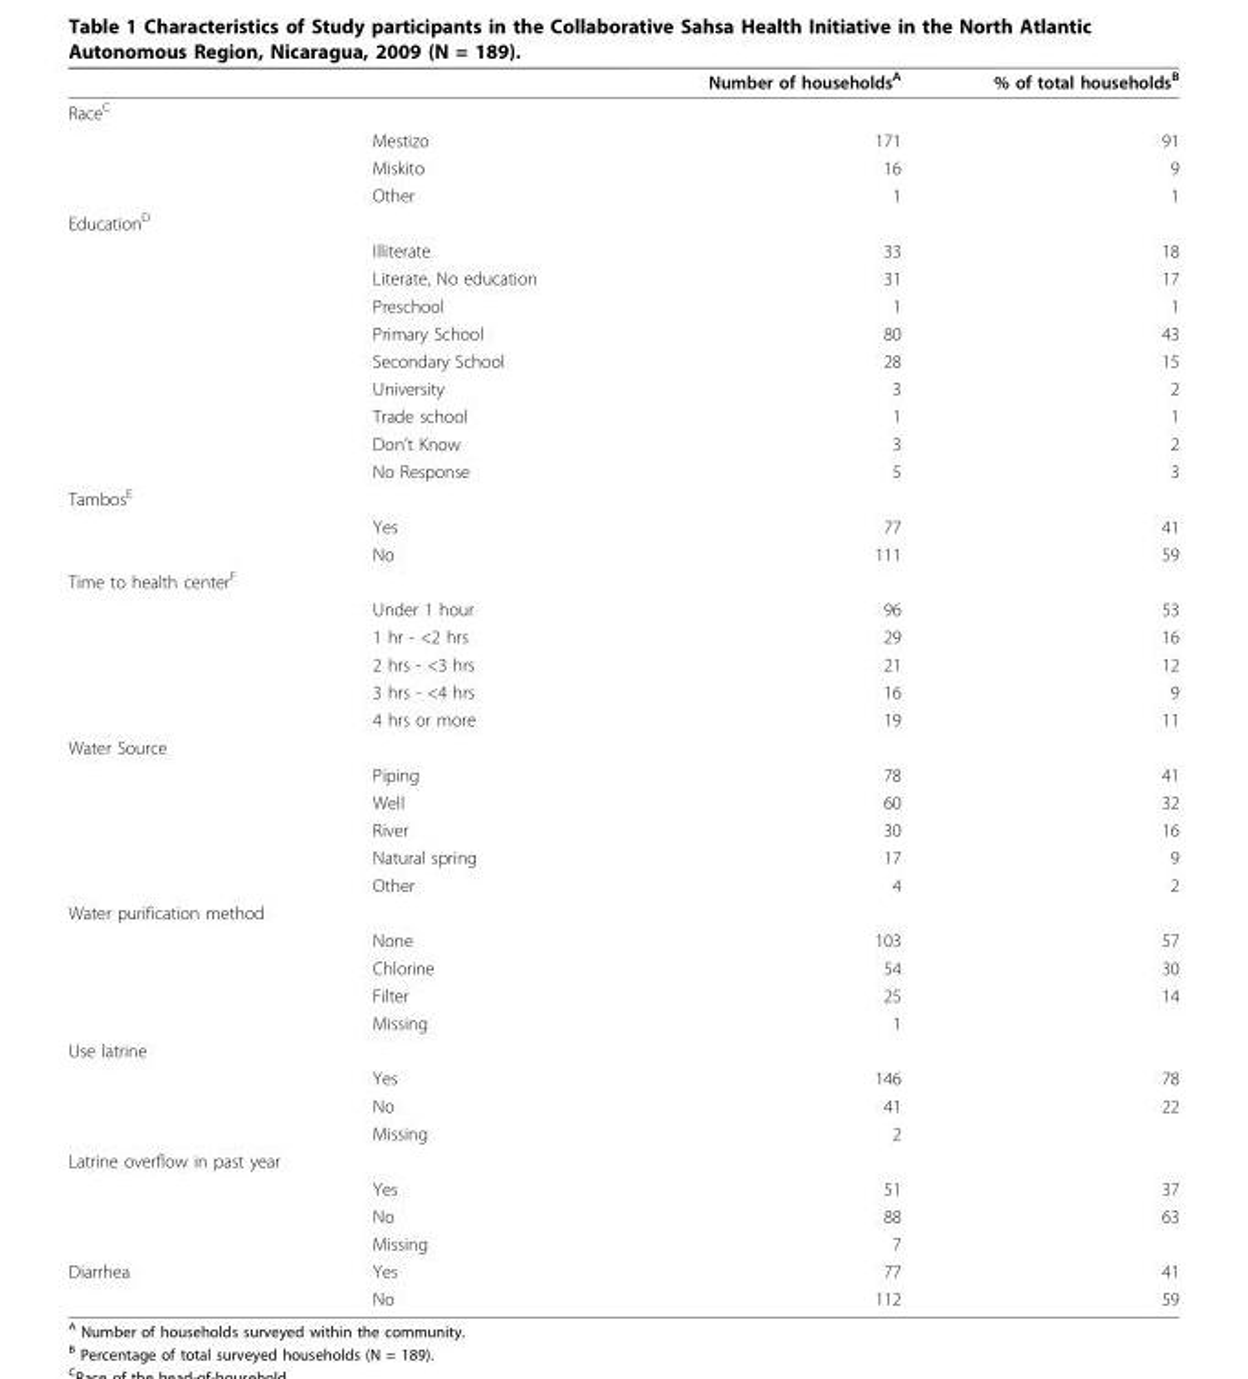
<table><thead><tr><td></td><td></td><td>Number of households<sup>A</sup></td><td>% of total households<sup>B</sup></td></tr></thead><tbody><tr><td colspan="4">Race<sup>C</sup></td></tr><tr><td></td><td>Mestizo</td><td>171</td><td>91</td></tr><tr><td></td><td>Miskito</td><td>16</td><td>9</td></tr><tr><td></td><td>Other</td><td>1</td><td>1</td></tr><tr><td colspan="4">Education<sup>D</sup></td></tr><tr><td></td><td>Illiterate</td><td>33</td><td>18</td></tr><tr><td></td><td>Literate, No education</td><td>31</td><td>17</td></tr><tr><td></td><td>Preschool</td><td>1</td><td>1</td></tr><tr><td></td><td>Primary School</td><td>80</td><td>43</td></tr><tr><td></td><td>Secondary School</td><td>28</td><td>15</td></tr><tr><td></td><td>University</td><td>3</td><td>2</td></tr><tr><td></td><td>Trade school</td><td>1</td><td>1</td></tr><tr><td></td><td>Don’t Know</td><td>3</td><td>2</td></tr><tr><td></td><td>No Response</td><td>5</td><td>3</td></tr><tr><td colspan="4">Tambos<sup>E</sup></td></tr><tr><td></td><td>Yes</td><td>77</td><td>41</td></tr><tr><td></td><td>No</td><td>111</td><td>59</td></tr><tr><td colspan="4">Time to health center<sup>F</sup></td></tr><tr><td></td><td>Under 1 hour</td><td>96</td><td>53</td></tr><tr><td></td><td>1 hr - &lt;2 hrs</td><td>29</td><td>16</td></tr><tr><td></td><td>2 hrs - &lt;3 hrs</td><td>21</td><td>12</td></tr><tr><td></td><td>3 hrs - &lt;4 hrs</td><td>16</td><td>9</td></tr><tr><td></td><td>4 hrs or more</td><td>19</td><td>11</td></tr><tr><td colspan="4">Water Source</td></tr><tr><td></td><td>Piping</td><td>78</td><td>41</td></tr><tr><td></td><td>Well</td><td>60</td><td>32</td></tr><tr><td></td><td>River</td><td>30</td><td>16</td></tr><tr><td></td><td>Natural spring</td><td>17</td><td>9</td></tr><tr><td></td><td>Other</td><td>4</td><td>2</td></tr><tr><td colspan="4">Water purification method</td></tr><tr><td></td><td>None</td><td>103</td><td>57</td></tr><tr><td></td><td>Chlorine</td><td>54</td><td>30</td></tr><tr><td></td><td>Filter</td><td>25</td><td>14</td></tr><tr><td></td><td>Missing</td><td>1</td><td></td></tr><tr><td colspan="4">Use latrine</td></tr><tr><td></td><td>Yes</td><td>146</td><td>78</td></tr><tr><td></td><td>No</td><td>41</td><td>22</td></tr><tr><td></td><td>Missing</td><td>2</td><td></td></tr><tr><td colspan="4">Latrine overflow in past year</td></tr><tr><td></td><td>Yes</td><td>51</td><td>37</td></tr><tr><td></td><td>No</td><td>88</td><td>63</td></tr><tr><td></td><td>Missing</td><td>7</td><td></td></tr><tr><td rowspan="2">Diarrhea</td><td>Yes</td><td>77</td><td>41</td></tr><tr><td>No</td><td>112</td><td>59</td></tr></tbody></table>